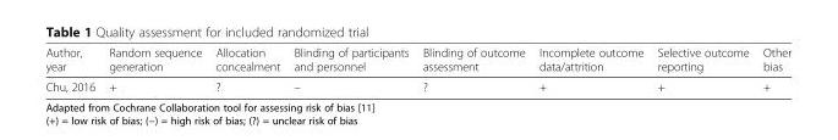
<table><thead><tr><td>Author, year</td><td>Random sequence generation</td><td>Allocation concealment</td><td>Blinding of participants and personnel</td><td>Blinding of outcome assessment</td><td>Incomplete outcome data/attrition</td><td>Selective outcome reporting</td><td>Other bias</td></tr></thead><tbody><tr><td>Chu, 2016</td><td>+</td><td>?</td><td>–</td><td>?</td><td>+</td><td>+</td><td>+</td></tr></tbody></table>